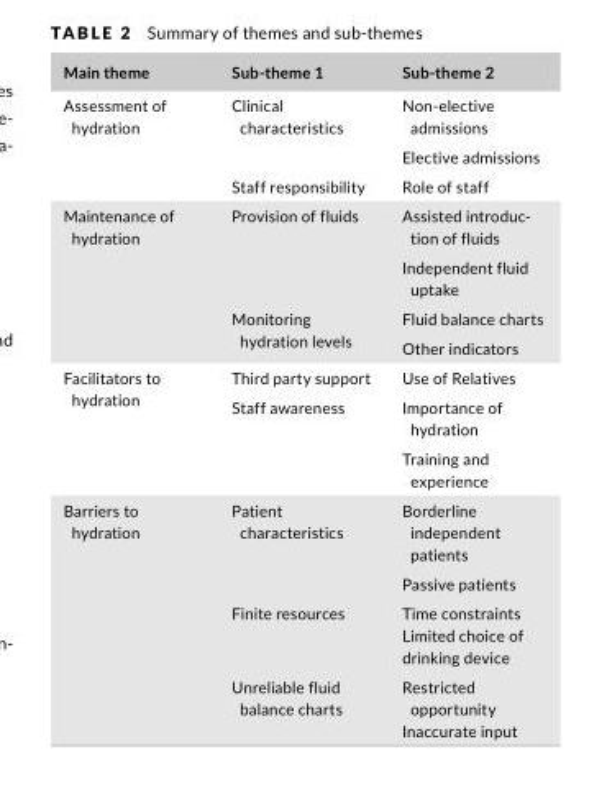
<table><thead><tr><td>Main theme</td><td>Sub- theme 1</td><td>Sub- theme 2</td></tr></thead><tbody><tr><td rowspan="3">Assessment of hydration</td><td rowspan="2">Clinical characteristics</td><td>Non- elective admissions</td></tr><tr><td>Elective admissions</td></tr><tr><td>Staff responsibility</td><td>Role of staff</td></tr><tr><td rowspan="4">Maintenance of hydration</td><td rowspan="2">Provision of fluids</td><td>Assisted introduc- tion of fluids</td></tr><tr><td>Independent fluid uptake</td></tr><tr><td rowspan="2">Monitoring hydration levels</td><td>Fluid balance charts</td></tr><tr><td>Other indicators</td></tr><tr><td rowspan="3">Facilitators to hydration</td><td>Third party support</td><td>Use of Relatives</td></tr><tr><td rowspan="2">Staff awareness</td><td>Importance of hydration</td></tr><tr><td>Training and experience</td></tr><tr><td rowspan="4">Barriers to hydration</td><td rowspan="2">Patient characteristics</td><td>Borderline independent patients</td></tr><tr><td>Passive patients</td></tr><tr><td>Finite resources</td><td>Time constraints Limited choice of drinking device</td></tr><tr><td>Unreliable fluid balance charts</td><td>Restricted opportunity Inaccurate input</td></tr></tbody></table>